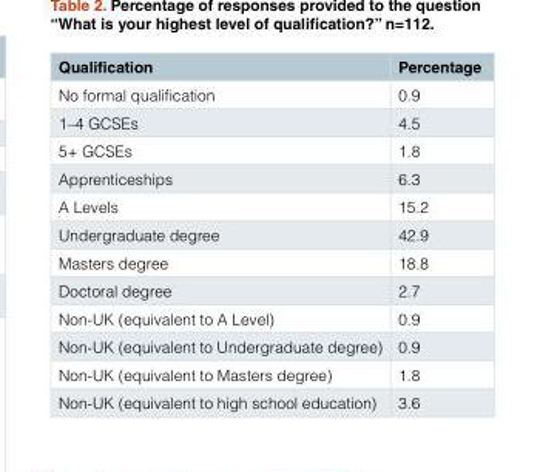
<table><thead><tr><td>Qualification</td><td>Percentage</td></tr></thead><tbody><tr><td>No formal qualification</td><td>0.9</td></tr><tr><td>1–4 GCSEs</td><td>4.5</td></tr><tr><td>5+ GCSEs</td><td>1.8</td></tr><tr><td>Apprenticeships</td><td>6.3</td></tr><tr><td>A Levels</td><td>15.2</td></tr><tr><td>Undergraduate degree</td><td>42.9</td></tr><tr><td>Masters degree</td><td>18.8</td></tr><tr><td>Doctoral degree</td><td>2.7</td></tr><tr><td>Non-UK (equivalent to A Level)</td><td>0.9</td></tr><tr><td>Non-UK (equivalent to Undergraduate degree)</td><td>0.9</td></tr><tr><td>Non-UK (equivalent to Masters degree)</td><td>1.8</td></tr><tr><td>Non-UK (equivalent to high school education)</td><td>3.6</td></tr></tbody></table>